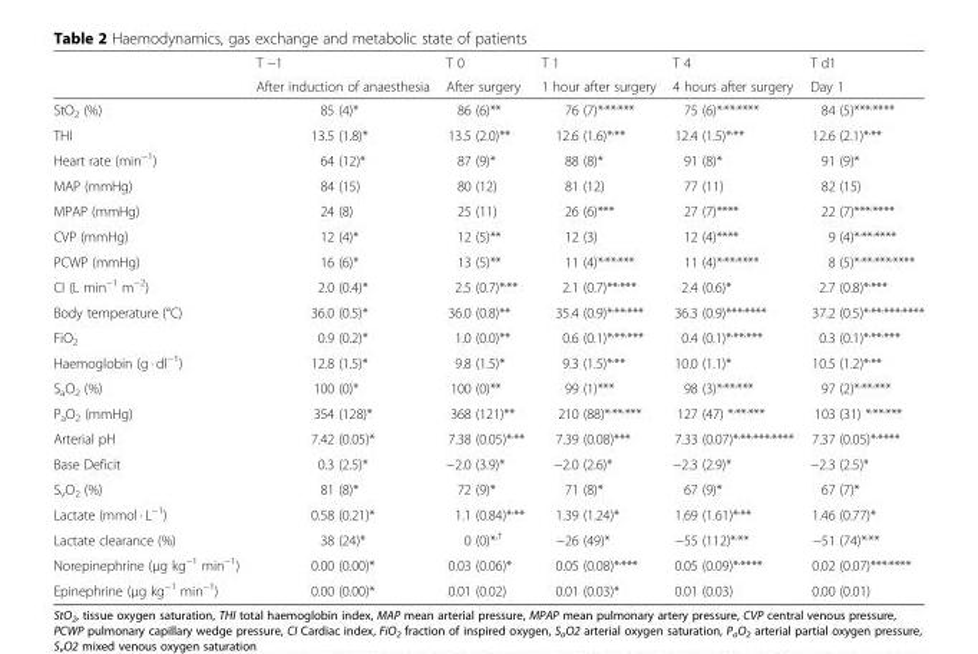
<table><thead><tr><td rowspan="2"></td><td rowspan="2">T −1 After induction of anaesthesia</td><td rowspan="2">T 0 After surgery</td><td rowspan="2">T 1 1 hour after surgery</td><td rowspan="2">T 4 4 hours after surgery</td><td rowspan="2">T d1 Day 1</td></tr><tr></tr></thead><tbody><tr><td>StO<sub>2</sub> (%)</td><td>85 (4)*</td><td>86 (6)**</td><td>76 (7)*<sup>,</sup>**<sup>,</sup>***</td><td>75 (6)*<sup>,</sup>**<sup>,</sup>****</td><td>84 (5)***<sup>,</sup>****</td></tr><tr><td>THI</td><td>13.5 (1.8)*</td><td>13.5 (2.0)**</td><td>12.6 (1.6)*<sup>,</sup>**</td><td>12.4 (1.5)*<sup>,</sup>**</td><td>12.6 (2.1)*<sup>,</sup>**</td></tr><tr><td>Heart rate (min<sup>−1</sup>)</td><td>64 (12)*</td><td>87 (9)*</td><td>88 (8)*</td><td>91 (8)*</td><td>91 (9)*</td></tr><tr><td>MAP (mmHg)</td><td>84 (15)</td><td>80 (12)</td><td>81 (12)</td><td>77 (11)</td><td>82 (15)</td></tr><tr><td>MPAP (mmHg)</td><td>24 (8)</td><td>25 (11)</td><td>26 (6)***</td><td>27 (7)****</td><td>22 (7)***<sup>,</sup>****</td></tr><tr><td>CVP (mmHg)</td><td>12 (4)*</td><td>12 (5)**</td><td>12 (3)</td><td>12 (4)****</td><td>9 (4)*<sup>,</sup>**<sup>,</sup>****</td></tr><tr><td>PCWP (mmHg)</td><td>16 (6)*</td><td>13 (5)**</td><td>11 (4)*<sup>,</sup>**<sup>,</sup>***</td><td>11 (4)*<sup>,</sup>**<sup>,</sup>****</td><td>8 (5)*<sup>,</sup>**<sup>,</sup>***<sup>,</sup>****</td></tr><tr><td>CI (L min<sup>−1</sup> m<sup>−2</sup>)</td><td>2.0 (0.4)*</td><td>2.5 (0.7)*<sup>,</sup>**</td><td>2.1 (0.7)**<sup>,</sup>***</td><td>2.4 (0.6)*</td><td>2.7 (0.8)*<sup>,</sup>***</td></tr><tr><td>Body temperature (°C)</td><td>36.0 (0.5)*</td><td>36.0 (0.8)**</td><td>35.4 (0.9)*<sup>,</sup>**<sup>,</sup>***</td><td>36.3 (0.9)***<sup>,</sup>****</td><td>37.2 (0.5)*<sup>,</sup>**<sup>,</sup>***<sup>,</sup>****</td></tr><tr><td>FiO<sub>2</sub></td><td>0.9 (0.2)*</td><td>1.0 (0.0)**</td><td>0.6 (0.1)*<sup>,</sup>**<sup>,</sup>***</td><td>0.4 (0.1)*<sup>,</sup>**<sup>,</sup>***</td><td>0.3 (0.1)*<sup>,</sup>**<sup>,</sup>***</td></tr><tr><td>Haemoglobin (g · dl<sup>−1</sup>)</td><td>12.8 (1.5)*</td><td>9.8 (1.5)*</td><td>9.3 (1.5)*<sup>,</sup>**</td><td>10.0 (1.1)*</td><td>10.5 (1.2)*<sup>,</sup>**</td></tr><tr><td>S<sub>a</sub>O<sub>2</sub> (%)</td><td>100 (0)*</td><td>100 (0)**</td><td>99 (1)***</td><td>98 (3)*<sup>,</sup>**<sup>,</sup>***</td><td>97 (2)*<sup>,</sup>**<sup>,</sup>***</td></tr><tr><td>P<sub>a</sub>O<sub>2</sub> (mmHg)</td><td>354 (128)*</td><td>368 (121)**</td><td>210 (88)*<sup>,</sup>**<sup>,</sup>***</td><td>127 (47) *<sup>,</sup>**<sup>,</sup>***</td><td>103 (31) *<sup>,</sup>**<sup>,</sup>***</td></tr><tr><td>Arterial pH</td><td>7.42 (0.05)*</td><td>7.38 (0.05)*<sup>,</sup>**</td><td>7.39 (0.08)***</td><td>7.33 (0.07)*<sup>,</sup>**<sup>,</sup>***<sup>,</sup>****</td><td>7.37 (0.05)*<sup>,</sup>****</td></tr><tr><td>Base Deficit</td><td>0.3 (2.5)*</td><td>−2.0 (3.9)*</td><td>−2.0 (2.6)*</td><td>−2.3 (2.9)*</td><td>−2.3 (2.5)*</td></tr><tr><td>S<sub>v</sub>O<sub>2</sub> (%)</td><td>81 (8)*</td><td>72 (9)*</td><td>71 (8)*</td><td>67 (9)*</td><td>67 (7)*</td></tr><tr><td>Lactate (mmol · L<sup>−1</sup>)</td><td>0.58 (0.21)*</td><td>1.1 (0.84)*<sup>,</sup>**</td><td>1.39 (1.24)*</td><td>1.69 (1.61)*<sup>,</sup>**</td><td>1.46 (0.77)*</td></tr><tr><td>Lactate clearance (%)</td><td>38 (24)*</td><td>0 (0)*<sup>,†</sup></td><td>−26 (49)*</td><td>−55 (112)*<sup>,</sup>**</td><td>−51 (74)*<sup>,</sup>**</td></tr><tr><td>Norepinephrine (μg kg<sup>−1</sup> min<sup>−1</sup>)</td><td>0.00 (0.00)*</td><td>0.03 (0.06)*</td><td>0.05 (0.08)*<sup>,</sup>***</td><td>0.05 (0.09)*<sup>,</sup>****</td><td>0.02 (0.07)***<sup>,</sup>****</td></tr><tr><td>Epinephrine (μg kg<sup>−1</sup> min<sup>−1</sup>)</td><td>0.00 (0.00)*</td><td>0.01 (0.02)</td><td>0.01 (0.03)*</td><td>0.01 (0.03)</td><td>0.00 (0.01)</td></tr></tbody></table>